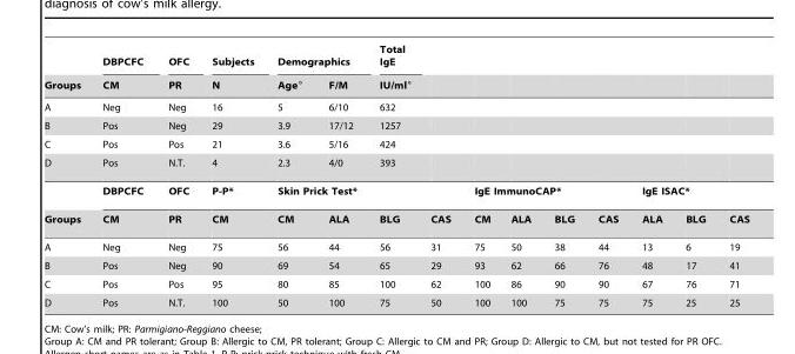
<table><thead><tr><td rowspan="2">Groups</td><td rowspan="2">DBPCFC CM</td><td rowspan="2">OFC PR</td><td rowspan="2">Subjects N</td><td colspan="2">Demographics</td><td rowspan="2">Total IgE IU/ml°</td><td rowspan="2"></td><td rowspan="2"></td><td rowspan="2"></td><td rowspan="2"></td><td rowspan="2"></td><td rowspan="2"></td><td rowspan="2"></td><td rowspan="2"></td></tr><tr><td>Age°</td><td>F/M</td></tr></thead><tbody><tr><td>A</td><td>Neg</td><td>Neg</td><td>16</td><td>5</td><td>6/10</td><td>632</td><td></td><td></td><td></td><td></td><td></td><td></td><td></td><td></td></tr><tr><td>B</td><td>Pos</td><td>Neg</td><td>29</td><td>3.9</td><td>17/12</td><td>1257</td><td></td><td></td><td></td><td></td><td></td><td></td><td></td><td></td></tr><tr><td>C</td><td>Pos</td><td>Pos</td><td>21</td><td>3.6</td><td>5/16</td><td>424</td><td></td><td></td><td></td><td></td><td></td><td></td><td></td><td></td></tr><tr><td rowspan="2">D</td><td>Pos</td><td>N.T.</td><td>4</td><td>2.3</td><td>4/0</td><td>393</td><td></td><td></td><td></td><td></td><td></td><td></td><td></td><td></td></tr><tr><td>DBPCFC</td><td>OFC</td><td>P-P*</td><td colspan="4">Skin Prick Test*</td><td colspan="4">IgE ImmunoCAP*</td><td colspan="3">IgE ISAC*</td></tr><tr><td>Groups</td><td>CM</td><td>PR</td><td>CM</td><td>CM</td><td>ALA</td><td>BLG</td><td>CAS</td><td>CM</td><td>ALA</td><td>BLG</td><td>CAS</td><td>ALA</td><td>BLG</td><td>CAS</td></tr><tr><td>A</td><td>Neg</td><td>Neg</td><td>75</td><td>56</td><td>44</td><td>56</td><td>31</td><td>75</td><td>50</td><td>38</td><td>44</td><td>13</td><td>6</td><td>19</td></tr><tr><td>B</td><td>Pos</td><td>Neg</td><td>90</td><td>69</td><td>54</td><td>65</td><td>29</td><td>93</td><td>62</td><td>66</td><td>76</td><td>48</td><td>17</td><td>41</td></tr><tr><td>C</td><td>Pos</td><td>Pos</td><td>95</td><td>80</td><td>85</td><td>100</td><td>62</td><td>100</td><td>86</td><td>90</td><td>90</td><td>67</td><td>76</td><td>71</td></tr><tr><td>D</td><td>Pos</td><td>N.T.</td><td>100</td><td>50</td><td>100</td><td>75</td><td>50</td><td>100</td><td>100</td><td>75</td><td>75</td><td>75</td><td>25</td><td>25</td></tr></tbody></table>